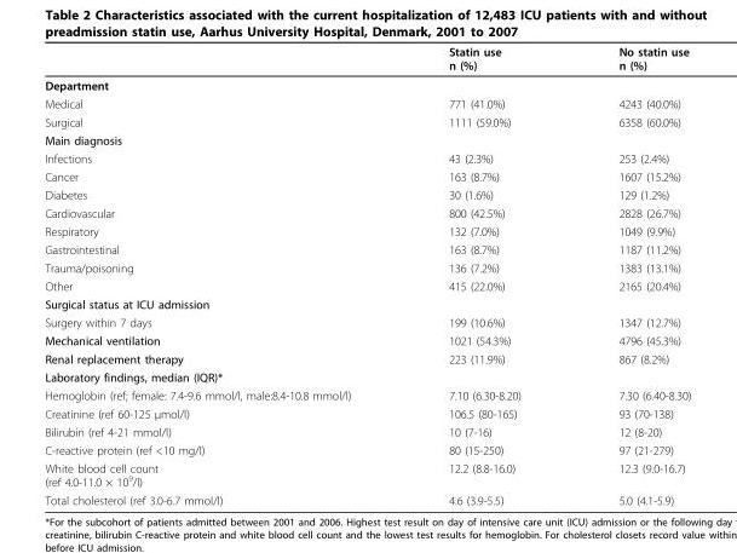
<table><thead><tr><td></td><td>Statin use n (%)</td><td>No statin use n (%)</td></tr></thead><tbody><tr><td colspan="3">Department</td></tr><tr><td>Medical</td><td>771 (41.0%)</td><td>4243 (40.0%)</td></tr><tr><td>Surgical</td><td>1111 (59.0%)</td><td>6358 (60.0%)</td></tr><tr><td colspan="3">Main diagnosis</td></tr><tr><td>Infections</td><td>43 (2.3%)</td><td>253 (2.4%)</td></tr><tr><td>Cancer</td><td>163 (8.7%)</td><td>1607 (15.2%)</td></tr><tr><td>Diabetes</td><td>30 (1.6%)</td><td>129 (1.2%)</td></tr><tr><td>Cardiovascular</td><td>800 (42.5%)</td><td>2828 (26.7%)</td></tr><tr><td>Respiratory</td><td>132 (7.0%)</td><td>1049 (9.9%)</td></tr><tr><td>Gastrointestinal</td><td>163 (8.7%)</td><td>1187 (11.2%)</td></tr><tr><td>Trauma/poisoning</td><td>136 (7.2%)</td><td>1383 (13.1%)</td></tr><tr><td>Other</td><td>415 (22.0%)</td><td>2165 (20.4%)</td></tr><tr><td colspan="3">Surgical status at ICU admission</td></tr><tr><td>Surgery within 7 days</td><td>199 (10.6%)</td><td>1347 (12.7%)</td></tr><tr><td>Mechanical ventilation</td><td>1021 (54.3%)</td><td>4796 (45.3%)</td></tr><tr><td>Renal replacement therapy</td><td>223 (11.9%)</td><td>867 (8.2%)</td></tr><tr><td colspan="3">Laboratory findings, median (IQR)*</td></tr><tr><td>Hemoglobin (ref; female: 7.4-9.6 mmol/l, male:8.4-10.8 mmol/l)</td><td>7.10 (6.30-8.20)</td><td>7.30 (6.40-8.30)</td></tr><tr><td>Creatinine (ref 60-125 μmol/l)</td><td>106.5 (80-165)</td><td>93 (70-138)</td></tr><tr><td>Bilirubin (ref 4-21 mmol/l)</td><td>10 (7-16)</td><td>12 (8-20)</td></tr><tr><td>C-reactive protein (ref &lt;10 mg/l)</td><td>80 (15-250)</td><td>97 (21-279)</td></tr><tr><td>White blood cell count (ref 4.0-11.0 × 10<sup>9</sup>/l)</td><td>12.2 (8.8-16.0)</td><td>12.3 (9.0-16.7)</td></tr><tr><td>Total cholesterol (ref 3.0-6.7 mmol/l)</td><td>4.6 (3.9-5.5)</td><td>5.0 (4.1-5.9)</td></tr></tbody></table>